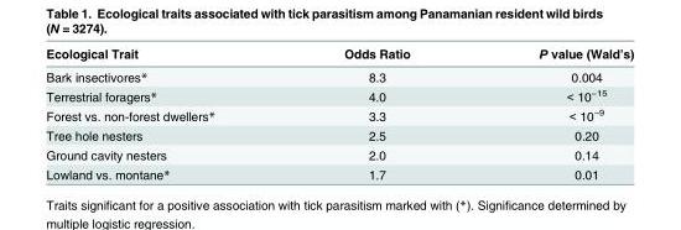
<table><thead><tr><td>Ecological Trait</td><td>Odds Ratio</td><td>P value (Wald’s)</td></tr></thead><tbody><tr><td>Bark insectivores*</td><td>8.3</td><td>0.004</td></tr><tr><td>Terrestrial foragers*</td><td>4.0</td><td>&lt; 10<sup>−15</sup></td></tr><tr><td>Forest vs. non-forest dwellers*</td><td>3.3</td><td>&lt; 10<sup>−9</sup></td></tr><tr><td>Tree hole nesters</td><td>2.5</td><td>0.20</td></tr><tr><td>Ground cavity nesters</td><td>2.0</td><td>0.14</td></tr><tr><td>Lowland vs. montane*</td><td>1.7</td><td>0.01</td></tr></tbody></table>